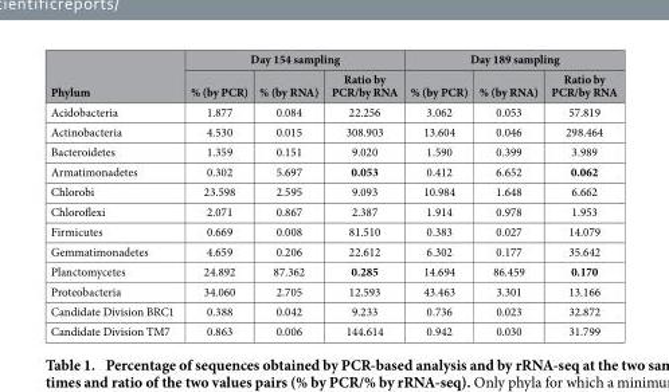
<table><thead><tr><td rowspan="2">Phylum</td><td colspan="3">Day 154 sampling</td><td colspan="3">Day 189 sampling</td></tr><tr><td>% (by PCR)</td><td>% (by RNA)</td><td>Ratio by PCR/by RNA</td><td>% (by PCR)</td><td>% (by RNA)</td><td>Ratio by PCR/by RNA</td></tr></thead><tbody><tr><td>Acidobacteria</td><td>1.877</td><td>0.084</td><td>22.256</td><td>3.062</td><td>0.053</td><td>57.819</td></tr><tr><td>Actinobacteria</td><td>4.530</td><td>0.015</td><td>308.903</td><td>13.604</td><td>0.046</td><td>298.464</td></tr><tr><td>Bacteroidetes</td><td>1.359</td><td>0.151</td><td>9.020</td><td>1.590</td><td>0.399</td><td>3.989</td></tr><tr><td>Armatimonadetes</td><td>0.302</td><td>5.697</td><td>0.053</td><td>0.412</td><td>6.652</td><td>0.062</td></tr><tr><td>Chlorobi</td><td>23.598</td><td>2.595</td><td>9.093</td><td>10.984</td><td>1.648</td><td>6.662</td></tr><tr><td>Chloroflexi</td><td>2.071</td><td>0.867</td><td>2.387</td><td>1.914</td><td>0.978</td><td>1.953</td></tr><tr><td>Firmicutes</td><td>0.669</td><td>0.008</td><td>81.510</td><td>0.383</td><td>0.027</td><td>14.079</td></tr><tr><td>Gemmatimonadetes</td><td>4.659</td><td>0.206</td><td>22.612</td><td>6.302</td><td>0.177</td><td>35.642</td></tr><tr><td>Planctomycetes</td><td>24.892</td><td>87.362</td><td>0.285</td><td>14.694</td><td>86.459</td><td>0.170</td></tr><tr><td>Proteobacteria</td><td>34.060</td><td>2.705</td><td>12.593</td><td>43.463</td><td>3.301</td><td>13.166</td></tr><tr><td>Candidate Division BRC1</td><td>0.388</td><td>0.042</td><td>9.233</td><td>0.736</td><td>0.023</td><td>32.872</td></tr><tr><td>Candidate Division TM7</td><td>0.863</td><td>0.006</td><td>144.614</td><td>0.942</td><td>0.030</td><td>31.799</td></tr></tbody></table>